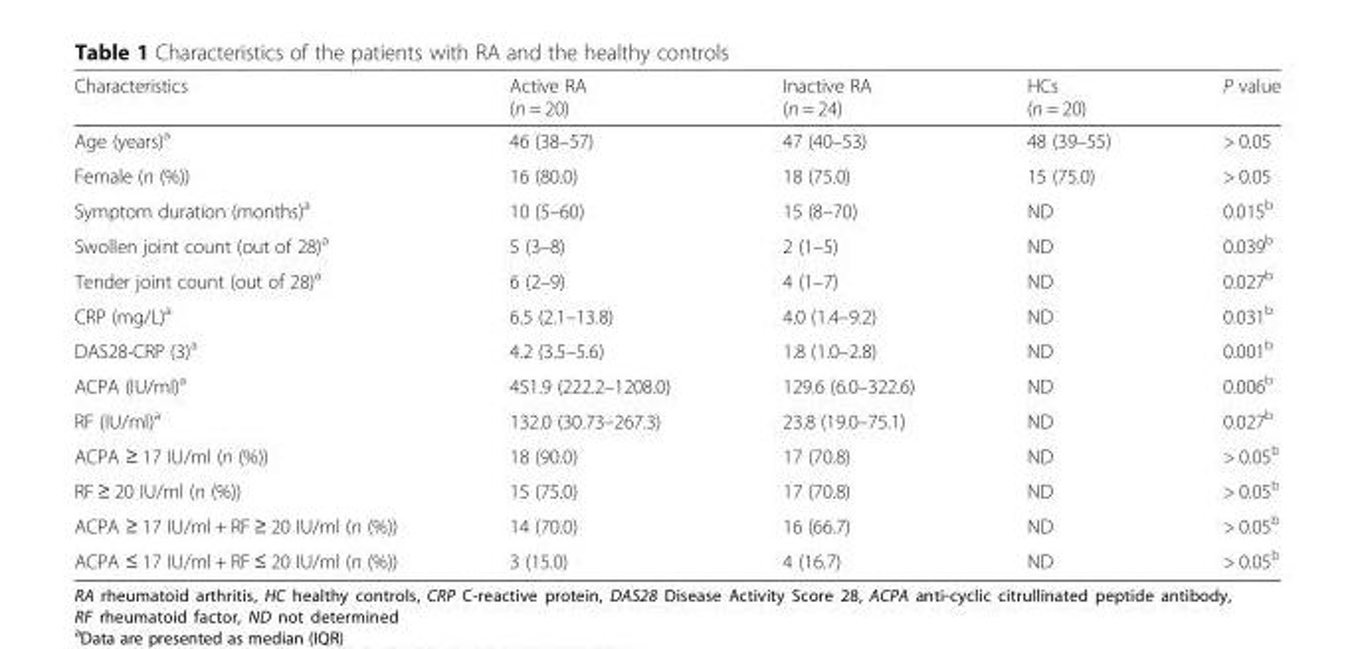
<table><thead><tr><td>Characteristics</td><td>Active RA (n = 20)</td><td>Inactive RA (n = 24)</td><td>HCs (n = 20)</td><td>P value</td></tr></thead><tbody><tr><td>Age (years)<sup>a</sup></td><td>46 (38–57)</td><td>47 (40–53)</td><td>48 (39–55)</td><td>&gt; 0.05</td></tr><tr><td>Female (n (%))</td><td>16 (80.0)</td><td>18 (75.0)</td><td>15 (75.0)</td><td>&gt; 0.05</td></tr><tr><td>Symptom duration (months)<sup>a</sup></td><td>10 (5–60)</td><td>15 (8–70)</td><td>ND</td><td>0.015<sup>b</sup></td></tr><tr><td>Swollen joint count (out of 28)<sup>a</sup></td><td>5 (3–8)</td><td>2 (1–5)</td><td>ND</td><td>0.039<sup>b</sup></td></tr><tr><td>Tender joint count (out of 28)<sup>a</sup></td><td>6 (2–9)</td><td>4 (1–7)</td><td>ND</td><td>0.027<sup>b</sup></td></tr><tr><td>CRP (mg/L)<sup>a</sup></td><td>6.5 (2.1–13.8)</td><td>4.0 (1.4–9.2)</td><td>ND</td><td>0.031<sup>b</sup></td></tr><tr><td>DAS28-CRP (3)<sup>a</sup></td><td>4.2 (3.5–5.6)</td><td>1.8 (1.0–2.8)</td><td>ND</td><td>0.001<sup>b</sup></td></tr><tr><td>ACPA (IU/ml)<sup>a</sup></td><td>451.9 (222.2–1208.0)</td><td>129.6 (6.0–322.6)</td><td>ND</td><td>0.006<sup>b</sup></td></tr><tr><td>RF (IU/ml)<sup>a</sup></td><td>132.0 (30.73–267.3)</td><td>23.8 (19.0–75.1)</td><td>ND</td><td>0.027<sup>b</sup></td></tr><tr><td>ACPA ≥ 17 IU/ml (n (%))</td><td>18 (90.0)</td><td>17 (70.8)</td><td>ND</td><td>&gt; 0.05<sup>b</sup></td></tr><tr><td>RF ≥ 20 IU/ml (n (%))</td><td>15 (75.0)</td><td>17 (70.8)</td><td>ND</td><td>&gt; 0.05<sup>b</sup></td></tr><tr><td>ACPA ≥ 17 IU/ml + RF ≥ 20 IU/ml (n (%))</td><td>14 (70.0)</td><td>16 (66.7)</td><td>ND</td><td>&gt; 0.05<sup>b</sup></td></tr><tr><td>ACPA ≤ 17 IU/ml + RF ≤ 20 IU/ml (n (%))</td><td>3 (15.0)</td><td>4 (16.7)</td><td>ND</td><td>&gt; 0.05<sup>b</sup></td></tr></tbody></table>